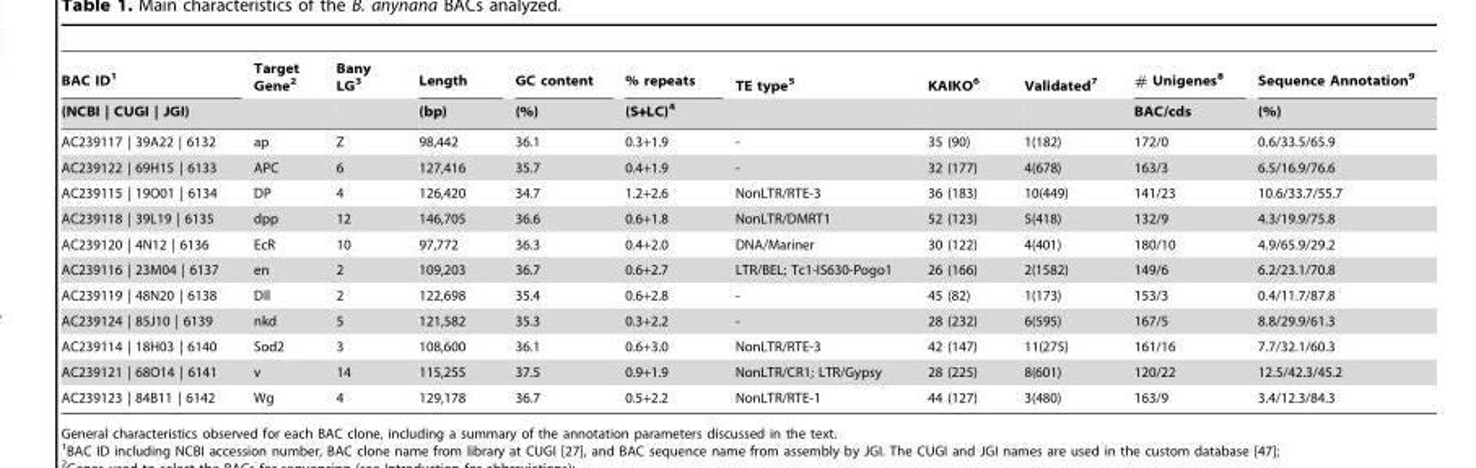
<table><thead><tr><td rowspan="2">BAC ID<sup>1</sup> (NCBI | CUGI | JGI)</td><td rowspan="2">Target Gene<sup>2</sup></td><td rowspan="2">Bany LG<sup>3</sup></td><td rowspan="2">Length (bp)</td><td rowspan="2">GC content (%)</td><td rowspan="2">% repeats (S+LC)<sup>4</sup></td><td rowspan="2">TE type<sup>5</sup></td><td rowspan="2">KAIKO<sup>6</sup></td><td rowspan="2">Validated<sup>7</sup></td><td rowspan="2"># Unigenes<sup>8</sup> BAC/cds</td><td rowspan="2">Sequence Annotation<sup>9</sup> (%)</td></tr><tr></tr></thead><tbody><tr><td>AC239117 | 39A22 | 6132</td><td>ap</td><td>Z</td><td>98,442</td><td>36.1</td><td>0.3+1.9</td><td>-</td><td>35 (90)</td><td>1(182)</td><td>172/0</td><td>0.6/33.5/65.9</td></tr><tr><td>AC239122 | 69H15 | 6133</td><td>APC</td><td>6</td><td>127,416</td><td>35.7</td><td>0.4+1.9</td><td>-</td><td>32 (177)</td><td>4(678)</td><td>163/3</td><td>6.5/16.9/76.6</td></tr><tr><td>AC239115 | 19O01 | 6134</td><td>DP</td><td>4</td><td>126,420</td><td>34.7</td><td>1.2+2.6</td><td>NonLTR/RTE-3</td><td>36 (183)</td><td>10(449)</td><td>141/23</td><td>10.6/33.7/55.7</td></tr><tr><td>AC239118 | 39L19 | 6135</td><td>dpp</td><td>12</td><td>146,705</td><td>36.6</td><td>0.6+1.8</td><td>NonLTR/DMRT1</td><td>52 (123)</td><td>5(418)</td><td>132/9</td><td>4.3/19.9/75.8</td></tr><tr><td>AC239120 | 4N12 | 6136</td><td>EcR</td><td>10</td><td>97,772</td><td>36.3</td><td>0.4+2.0</td><td>DNA/Mariner</td><td>30 (122)</td><td>4(401)</td><td>180/10</td><td>4.9/65.9/29.2</td></tr><tr><td>AC239116 | 23M04 | 6137</td><td>en</td><td>2</td><td>109,203</td><td>36.7</td><td>0.6+2.7</td><td>LTR/BEL; Tc1-IS630-Pogo1</td><td>26 (166)</td><td>2(1582)</td><td>149/6</td><td>6.2/23.1/70.8</td></tr><tr><td>AC239119 | 48N20 | 6138</td><td>Dll</td><td>2</td><td>122,698</td><td>35.4</td><td>0.6+2.8</td><td>-</td><td>45 (82)</td><td>1(173)</td><td>153/3</td><td>0.4/11.7/87.8</td></tr><tr><td>AC239124 | 85J10 | 6139</td><td>nkd</td><td>5</td><td>121,582</td><td>35.3</td><td>0.3+2.2</td><td>-</td><td>28 (232)</td><td>6(595)</td><td>167/5</td><td>8.8/29.9/61.3</td></tr><tr><td>AC239114 | 18H03 | 6140</td><td>Sod2</td><td>3</td><td>108,600</td><td>36.1</td><td>0.6+3.0</td><td>NonLTR/RTE-3</td><td>42 (147)</td><td>11(275)</td><td>161/16</td><td>7.7/32.1/60.3</td></tr><tr><td>AC239121 | 68O14 | 6141</td><td>v</td><td>14</td><td>115,255</td><td>37.5</td><td>0.9+1.9</td><td>NonLTR/CR1; LTR/Gypsy</td><td>28 (225)</td><td>8(601)</td><td>120/22</td><td>12.5/42.3/45.2</td></tr><tr><td>AC239123 | 84B11 | 6142</td><td>Wg</td><td>4</td><td>129,178</td><td>36.7</td><td>0.5+2.2</td><td>NonLTR/RTE-1</td><td>44 (127)</td><td>3(480)</td><td>163/9</td><td>3.4/12.3/84.3</td></tr></tbody></table>